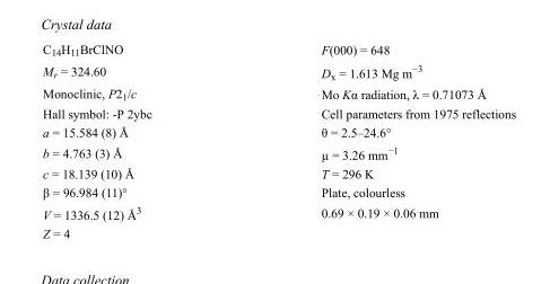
<table><tbody><tr><td>C<sub>14</sub>H<sub>11</sub>BrClNO</td><td>F(000) = 648</td></tr><tr><td>M<sub>r</sub> = 324.60</td><td>D<sub>x</sub> = 1.613 Mg m<sup>−3</sup></td></tr><tr><td>Monoclinic, P2<sub>1</sub>/c</td><td>Mo Kα radiation, λ = 0.71073 Å</td></tr><tr><td>Hall symbol: -P 2ybc</td><td>Cell parameters from 1975 reflections</td></tr><tr><td>a = 15.584 (8) Å</td><td>θ = 2.5–24.6°</td></tr><tr><td>b = 4.763 (3) Å</td><td>µ = 3.26 mm<sup>−1</sup></td></tr><tr><td>c = 18.139 (10) Å</td><td>T = 296 K</td></tr><tr><td>β = 96.984 (11)°</td><td>Plate, colourless</td></tr><tr><td>V = 1336.5 (12) Å<sup>3</sup></td><td>0.69 × 0.19 × 0.06 mm</td></tr><tr><td>Z = 4</td><td></td></tr></tbody></table>